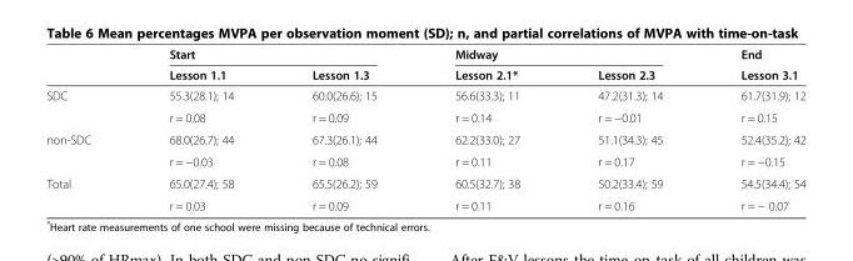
<table><thead><tr><td rowspan="2"></td><td colspan="2">Start</td><td colspan="2">Midway</td><td rowspan="2">End Lesson 3.1</td></tr><tr><td>Lesson 1.1</td><td>Lesson 1.3</td><td>Lesson 2.1*</td><td>Lesson 2.3</td></tr></thead><tbody><tr><td rowspan="2">SDC</td><td>55.3(28.1); 14</td><td>60.0(26.6); 15</td><td>56.6(33.3); 11</td><td>47.2(31.3); 14</td><td>61.7(31.9); 12</td></tr><tr><td>r = 0.08</td><td>r = 0.09</td><td>r = 0.14</td><td>r = −0.01</td><td>r = 0.15</td></tr><tr><td rowspan="2">non-SDC</td><td>68.0(26.7); 44</td><td>67.3(26.1); 44</td><td>62.2(33.0); 27</td><td>51.1(34.3); 45</td><td>52.4(35.2); 42</td></tr><tr><td>r = −0.03</td><td>r = 0.08</td><td>r = 0.11</td><td>r = 0.17</td><td>r = −0.15</td></tr><tr><td rowspan="2">Total</td><td>65.0(27.4); 58</td><td>65.5(26.2); 59</td><td>60.5(32.7); 38</td><td>50.2(33.4); 59</td><td>54.5(34.4); 54</td></tr><tr><td>r = 0.03</td><td>r = 0.09</td><td>r = 0.11</td><td>r = 0.16</td><td>r = − 0.07</td></tr></tbody></table>